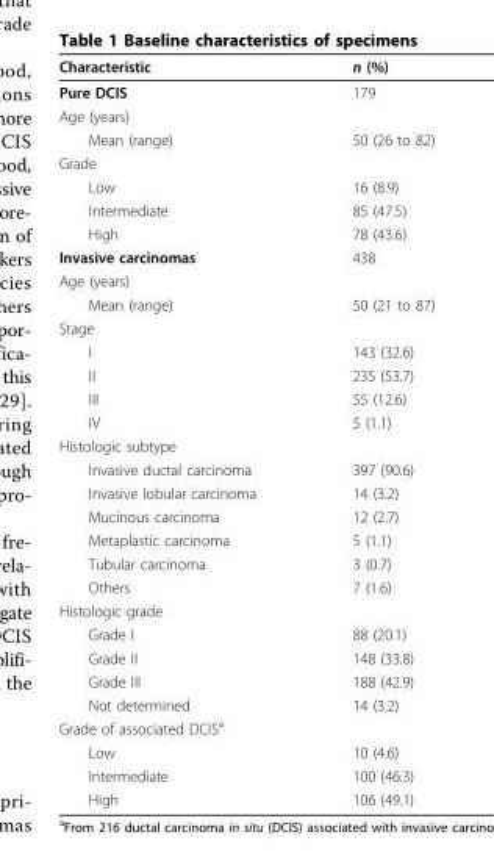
<table><thead><tr><td>Characteristic</td><td>n (%)</td></tr></thead><tbody><tr><td>Pure DCIS</td><td>179</td></tr><tr><td colspan="2">Age (years)</td></tr><tr><td>Mean (range)</td><td>50 (26 to 82)</td></tr><tr><td colspan="2">Grade</td></tr><tr><td>Low</td><td>16 (8.9)</td></tr><tr><td>Intermediate</td><td>85 (47.5)</td></tr><tr><td>High</td><td>78 (43.6)</td></tr><tr><td>Invasive carcinomas</td><td>438</td></tr><tr><td colspan="2">Age (years)</td></tr><tr><td>Mean (range)</td><td>50 (21 to 87)</td></tr><tr><td colspan="2">Stage</td></tr><tr><td>I</td><td>143 (32.6)</td></tr><tr><td>II</td><td>235 (53.7)</td></tr><tr><td>III</td><td>55 (12.6)</td></tr><tr><td>IV</td><td>5 (1.1)</td></tr><tr><td colspan="2">Histologic subtype</td></tr><tr><td>Invasive ductal carcinoma</td><td>397 (90.6)</td></tr><tr><td>Invasive lobular carcinoma</td><td>14 (3.2)</td></tr><tr><td>Mucinous carcinoma</td><td>12 (2.7)</td></tr><tr><td>Metaplastic carcinoma</td><td>5 (1.1)</td></tr><tr><td>Tubular carcinoma</td><td>3 (0.7)</td></tr><tr><td>Others</td><td>7 (1.6)</td></tr><tr><td colspan="2">Histologic grade</td></tr><tr><td>Grade I</td><td>88 (20.1)</td></tr><tr><td>Grade II</td><td>148 (33.8)</td></tr><tr><td>Grade III</td><td>188 (42.9)</td></tr><tr><td>Not determined</td><td>14 (3.2)</td></tr><tr><td colspan="2">Grade of associated DCIS<sup>a</sup></td></tr><tr><td>Low</td><td>10 (4.6)</td></tr><tr><td>Intermediate</td><td>100 (46.3)</td></tr><tr><td>High</td><td>106 (49.1)</td></tr></tbody></table>